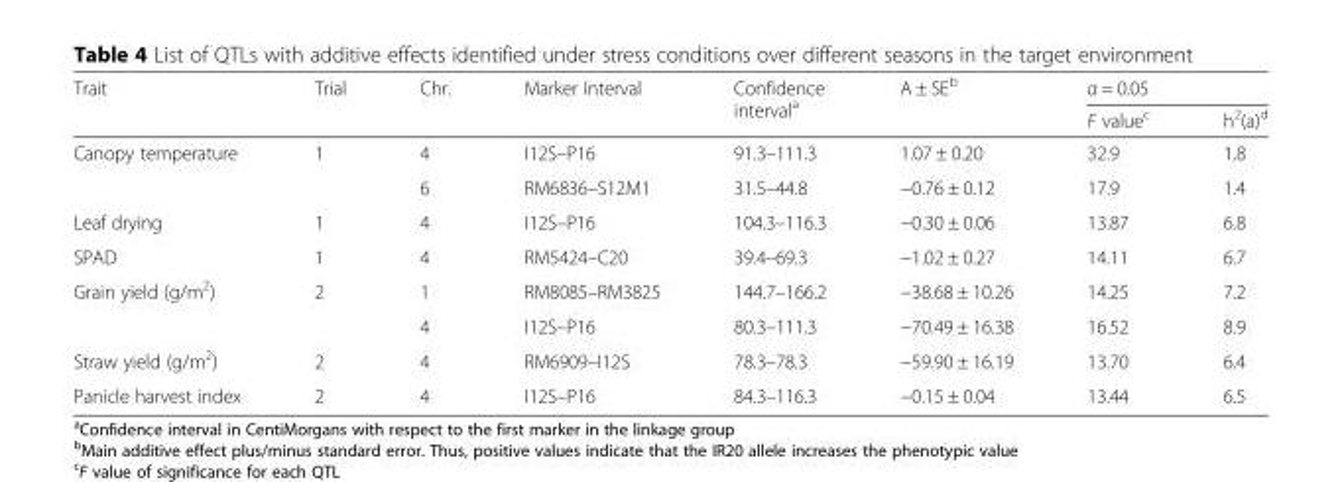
<table><thead><tr><td rowspan="2">Trait</td><td rowspan="2">Trial</td><td rowspan="2">Chr.</td><td rowspan="2">Marker Interval</td><td rowspan="2">Confidence interval<sup>a</sup></td><td rowspan="2">A ± SE<sup>b</sup></td><td colspan="2">α = 0.05</td></tr><tr><td>F value<sup>c</sup></td><td>h<sup>2</sup>(a)<sup>d</sup></td></tr></thead><tbody><tr><td rowspan="2">Canopy temperature</td><td>1</td><td>4</td><td>I12S–P16</td><td>91.3–111.3</td><td>1.07 ± 0.20</td><td>32.9</td><td>1.8</td></tr><tr><td></td><td>6</td><td>RM6836–S12M1</td><td>31.5–44.8</td><td>−0.76 ± 0.12</td><td>17.9</td><td>1.4</td></tr><tr><td>Leaf drying</td><td>1</td><td>4</td><td>I12S–P16</td><td>104.3–116.3</td><td>−0.30 ± 0.06</td><td>13.87</td><td>6.8</td></tr><tr><td>SPAD</td><td>1</td><td>4</td><td>RM5424–C20</td><td>39.4–69.3</td><td>−1.02 ± 0.27</td><td>14.11</td><td>6.7</td></tr><tr><td rowspan="2">Grain yield (g/m<sup>2</sup>)</td><td>2</td><td>1</td><td>RM8085–RM3825</td><td>144.7–166.2</td><td>−38.68 ± 10.26</td><td>14.25</td><td>7.2</td></tr><tr><td></td><td>4</td><td>I12S–P16</td><td>80.3–111.3</td><td>−70.49 ± 16.38</td><td>16.52</td><td>8.9</td></tr><tr><td>Straw yield (g/m<sup>2</sup>)</td><td>2</td><td>4</td><td>RM6909–I12S</td><td>78.3–78.3</td><td>−59.90 ± 16.19</td><td>13.70</td><td>6.4</td></tr><tr><td>Panicle harvest index</td><td>2</td><td>4</td><td>I12S–P16</td><td>84.3–116.3</td><td>−0.15 ± 0.04</td><td>13.44</td><td>6.5</td></tr></tbody></table>